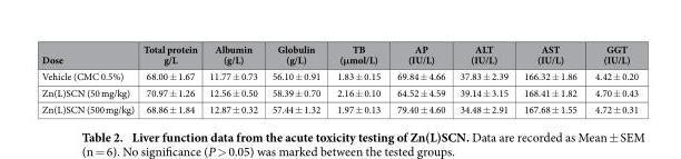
<table><thead><tr><td>Dose</td><td>Total protein g/L</td><td>Albumin (g/L)</td><td>Globulin (g/L)</td><td>TB (μmol/L)</td><td>AP (IU/L)</td><td>ALT (IU/L)</td><td>AST (IU/L)</td><td>GGT (IU/L)</td></tr></thead><tbody><tr><td>Vehicle (CMC 0.5%)</td><td>68.00 ± 1.67</td><td>11.77 ± 0.73</td><td>56.10 ± 0.91</td><td>1.83 ± 0.15</td><td>69.84 ± 4.66</td><td>37.83 ± 2.39</td><td>166.32 ± 1.86</td><td>4.42 ± 0.20</td></tr><tr><td>Zn(L)SCN (50 mg/kg)</td><td>70.97 ± 1.26</td><td>12.56 ± 0.50</td><td>58.39 ± 0.70</td><td>2.16 ± 0.10</td><td>64.52 ± 4.59</td><td>39.14 ± 3.15</td><td>168.41 ± 1.82</td><td>4.70 ± 0.43</td></tr><tr><td>Zn(L)SCN (500 mg/kg)</td><td>68.86 ± 1.84</td><td>12.87 ± 0.32</td><td>57.44 ± 1.32</td><td>1.97 ± 0.13</td><td>79.40 ± 4.60</td><td>34.48 ± 2.91</td><td>167.68 ± 1.55</td><td>4.72 ± 0.31</td></tr></tbody></table>